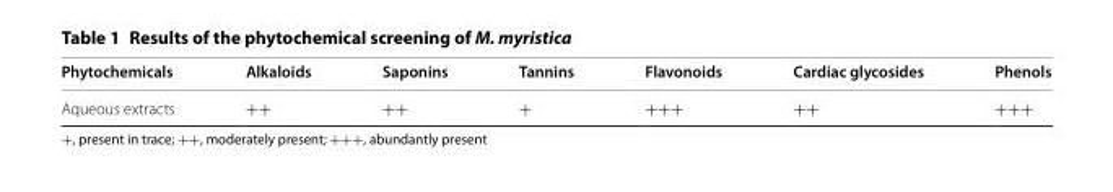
<table><thead><tr><td>Phytochemicals</td><td>Alkaloids</td><td>Saponins</td><td>Tannins</td><td>Flavonoids</td><td>Cardiac glycosides</td><td>Phenols</td></tr></thead><tbody><tr><td>Aqueous extracts</td><td>++</td><td>++</td><td>+</td><td>+++</td><td>++</td><td>+++</td></tr></tbody></table>